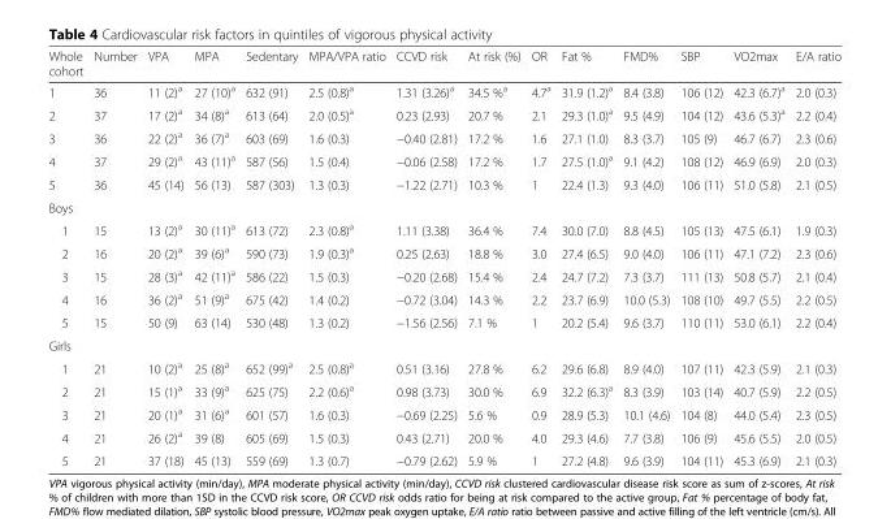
<table><thead><tr><td>Whole cohort</td><td>Number</td><td>VPA</td><td>MPA</td><td>Sedentary</td><td>MPA/VPA ratio</td><td>CCVD risk</td><td>At risk (%)</td><td>OR</td><td>Fat %</td><td>FMD%</td><td>SBP</td><td>VO2max</td><td>E/A ratio</td></tr></thead><tbody><tr><td>1</td><td>36</td><td>11 (2)<sup>a</sup></td><td>27 (10)<sup>a</sup></td><td>632 (91)</td><td>2.5 (0.8)<sup>a</sup></td><td>1.31 (3.26)<sup>a</sup></td><td>34.5 %<sup>a</sup></td><td>4.7<sup>a</sup></td><td>31.9 (1.2)<sup>a</sup></td><td>8.4 (3.8)</td><td>106 (12)</td><td>42.3 (6.7)<sup>a</sup></td><td>2.0 (0.3)</td></tr><tr><td>2</td><td>37</td><td>17 (2)<sup>a</sup></td><td>34 (8)<sup>a</sup></td><td>613 (64)</td><td>2.0 (0.5)<sup>a</sup></td><td>0.23 (2.93)</td><td>20.7 %</td><td>2.1</td><td>29.3 (1.0)<sup>a</sup></td><td>9.5 (4.9)</td><td>104 (12)</td><td>43.6 (5.3)<sup>a</sup></td><td>2.2 (0.4)</td></tr><tr><td>3</td><td>36</td><td>22 (2)<sup>a</sup></td><td>36 (7)<sup>a</sup></td><td>603 (69)</td><td>1.6 (0.3)</td><td>−0.40 (2.81)</td><td>17.2 %</td><td>1.6</td><td>27.1 (1.0)</td><td>8.3 (3.7)</td><td>105 (9)</td><td>46.7 (6.7)</td><td>2.3 (0.6)</td></tr><tr><td>4</td><td>37</td><td>29 (2)<sup>a</sup></td><td>43 (11)<sup>a</sup></td><td>587 (56)</td><td>1.5 (0.4)</td><td>−0.06 (2.58)</td><td>17.2 %</td><td>1.7</td><td>27.5 (1.0)<sup>a</sup></td><td>9.1 (4.2)</td><td>108 (12)</td><td>46.9 (6.9)</td><td>2.0 (0.3)</td></tr><tr><td>5</td><td>36</td><td>45 (14)</td><td>56 (13)</td><td>587 (303)</td><td>1.3 (0.3)</td><td>−1.22 (2.71)</td><td>10.3 %</td><td>1</td><td>22.4 (1.3)</td><td>9.3 (4.0)</td><td>106 (11)</td><td>51.0 (5.8)</td><td>2.1 (0.5)</td></tr><tr><td colspan="14">Boys</td></tr><tr><td>1</td><td>15</td><td>13 (2)<sup>a</sup></td><td>30 (11)<sup>a</sup></td><td>613 (72)</td><td>2.3 (0.8)<sup>a</sup></td><td>1.11 (3.38)</td><td>36.4 %</td><td>7.4</td><td>30.0 (7.0)</td><td>8.8 (4.5)</td><td>105 (13)</td><td>47.5 (6.1)</td><td>1.9 (0.3)</td></tr><tr><td>2</td><td>16</td><td>20 (2)<sup>a</sup></td><td>39 (6)<sup>a</sup></td><td>590 (73)</td><td>1.9 (0.3)<sup>a</sup></td><td>0.25 (2.63)</td><td>18.8 %</td><td>3.0</td><td>27.4 (6.5)</td><td>9.0 (4.0)</td><td>106 (11)</td><td>47.1 (7.2)</td><td>2.3 (0.6)</td></tr><tr><td>3</td><td>15</td><td>28 (3)<sup>a</sup></td><td>42 (11)<sup>a</sup></td><td>586 (22)</td><td>1.5 (0.3)</td><td>−0.20 (2.68)</td><td>15.4 %</td><td>2.4</td><td>24.7 (7.2)</td><td>7.3 (3.7)</td><td>111 (13)</td><td>50.8 (5.7)</td><td>2.1 (0.4)</td></tr><tr><td>4</td><td>16</td><td>36 (2)<sup>a</sup></td><td>51 (9)<sup>a</sup></td><td>675 (42)</td><td>1.4 (0.2)</td><td>−0.72 (3.04)</td><td>14.3 %</td><td>2.2</td><td>23.7 (6.9)</td><td>10.0 (5.3)</td><td>108 (10)</td><td>49.7 (5.5)</td><td>2.2 (0.5)</td></tr><tr><td>5</td><td>15</td><td>50 (9)</td><td>63 (14)</td><td>530 (48)</td><td>1.3 (0.2)</td><td>−1.56 (2.56)</td><td>7.1 %</td><td>1</td><td>20.2 (5.4)</td><td>9.6 (3.7)</td><td>110 (11)</td><td>53.0 (6.1)</td><td>2.2 (0.4)</td></tr><tr><td colspan="14">Girls</td></tr><tr><td>1</td><td>21</td><td>10 (2)<sup>a</sup></td><td>25 (8)<sup>a</sup></td><td>652 (99)<sup>a</sup></td><td>2.5 (0.8)<sup>a</sup></td><td>0.51 (3.16)</td><td>27.8 %</td><td>6.2</td><td>29.6 (6.8)</td><td>8.9 (4.0)</td><td>107 (11)</td><td>42.3 (5.9)</td><td>2.1 (0.3)</td></tr><tr><td>2</td><td>21</td><td>15 (1)<sup>a</sup></td><td>33 (9)<sup>a</sup></td><td>625 (75)</td><td>2.2 (0.6)<sup>a</sup></td><td>0.98 (3.73)</td><td>30.0 %</td><td>6.9</td><td>32.2 (6.3)<sup>a</sup></td><td>8.3 (3.9)</td><td>103 (14)</td><td>40.7 (5.9)</td><td>2.2 (0.5)</td></tr><tr><td>3</td><td>21</td><td>20 (1)<sup>a</sup></td><td>31 (6)<sup>a</sup></td><td>601 (57)</td><td>1.6 (0.3)</td><td>−0.69 (2.25)</td><td>5.6 %</td><td>0.9</td><td>28.9 (5.3)</td><td>10.1 (4.6)</td><td>104 (8)</td><td>44.0 (5.4)</td><td>2.3 (0.5)</td></tr><tr><td>4</td><td>21</td><td>26 (2)<sup>a</sup></td><td>39 (8)</td><td>605 (69)</td><td>1.5 (0.3)</td><td>0.43 (2.71)</td><td>20.0 %</td><td>4.0</td><td>29.3 (4.6)</td><td>7.7 (3.8)</td><td>106 (9)</td><td>45.6 (5.5)</td><td>2.0 (0.5)</td></tr><tr><td>5</td><td>21</td><td>37 (18)</td><td>45 (13)</td><td>559 (69)</td><td>1.3 (0.7)</td><td>−0.79 (2.62)</td><td>5.9 %</td><td>1</td><td>27.2 (4.8)</td><td>9.6 (3.9)</td><td>104 (11)</td><td>45.3 (6.9)</td><td>2.1 (0.3)</td></tr></tbody></table>